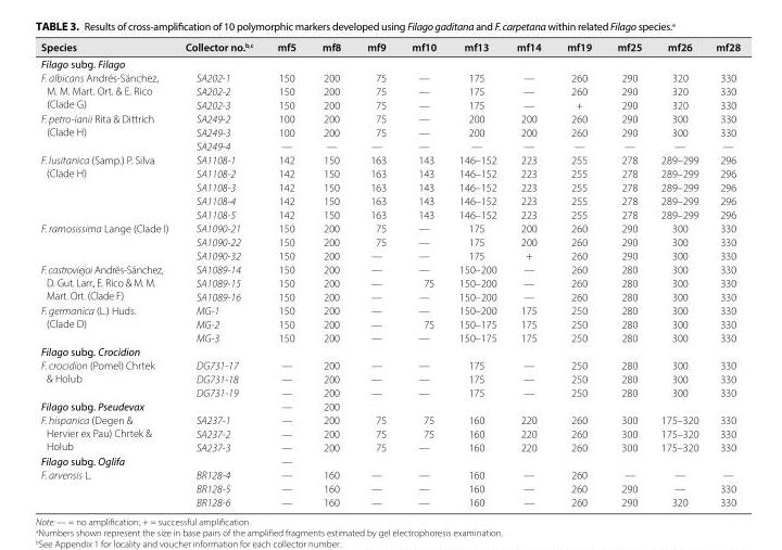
<table><thead><tr><td>Species</td><td>Collector no.<sup>b,</sup>c</td><td>mf5</td><td>mf8</td><td>mf9</td><td>mf10</td><td>mf13</td><td>mf14</td><td>mf19</td><td>mf25</td><td>mf26</td><td>mf28</td></tr></thead><tbody><tr><td colspan="12">Filago subg. Filago</td></tr><tr><td rowspan="3">F. albicans Andrés- Sánchez, M. M. Mart. Ort. &amp; E. Rico (Clade G)</td><td>SA202-1</td><td>150</td><td>200</td><td>75</td><td>—</td><td>175</td><td>—</td><td>260</td><td>290</td><td>320</td><td>330</td></tr><tr><td>SA202-2</td><td>150</td><td>200</td><td>75</td><td>—</td><td>175</td><td>—</td><td>260</td><td>290</td><td>320</td><td>330</td></tr><tr><td>SA202-3</td><td>150</td><td>200</td><td>75</td><td>—</td><td>175</td><td>—</td><td>+</td><td>290</td><td>320</td><td>330</td></tr><tr><td rowspan="3">F. petro-ianii Rita &amp; Dittrich (Clade H)</td><td>SA249-2</td><td>100</td><td>200</td><td>75</td><td>—</td><td>200</td><td>200</td><td>260</td><td>290</td><td>300</td><td>330</td></tr><tr><td>SA249-3</td><td>100</td><td>200</td><td>75</td><td>—</td><td>200</td><td>200</td><td>260</td><td>290</td><td>300</td><td>330</td></tr><tr><td>SA249-4</td><td>—</td><td>—</td><td>—</td><td>—</td><td>—</td><td>—</td><td>—</td><td>—</td><td>—</td><td>—</td></tr><tr><td rowspan="5">F. lusitanica (Samp.) P. Silva (Clade H)</td><td>SA1108-1</td><td>142</td><td>150</td><td>163</td><td>143</td><td>146–152</td><td>223</td><td>255</td><td>278</td><td>289–299</td><td>296</td></tr><tr><td>SA1108-2</td><td>142</td><td>150</td><td>163</td><td>143</td><td>146–152</td><td>223</td><td>255</td><td>278</td><td>289–299</td><td>296</td></tr><tr><td>SA1108-3</td><td>142</td><td>150</td><td>163</td><td>143</td><td>146–152</td><td>223</td><td>255</td><td>278</td><td>289–299</td><td>296</td></tr><tr><td>SA1108-4</td><td>142</td><td>150</td><td>163</td><td>143</td><td>146–152</td><td>223</td><td>255</td><td>278</td><td>289–299</td><td>296</td></tr><tr><td>SA1108-5</td><td>142</td><td>150</td><td>163</td><td>143</td><td>146–152</td><td>223</td><td>255</td><td>278</td><td>289–299</td><td>296</td></tr><tr><td rowspan="3">F. ramosissima Lange (Clade I)</td><td>SA1090-21</td><td>150</td><td>200</td><td>75</td><td>—</td><td>175</td><td>200</td><td>260</td><td>290</td><td>300</td><td>330</td></tr><tr><td>SA1090-22</td><td>150</td><td>200</td><td>75</td><td>—</td><td>175</td><td>200</td><td>260</td><td>290</td><td>300</td><td>330</td></tr><tr><td>SA1090-32</td><td>150</td><td>200</td><td>—</td><td>—</td><td>175</td><td>+</td><td>260</td><td>290</td><td>300</td><td>330</td></tr><tr><td rowspan="3">F. castroviejoi Andrés- Sánchez, D. Gut. Larr., E. Rico &amp; M. M. Mart. Ort. (Clade F)</td><td>SA1089-14</td><td>150</td><td>200</td><td>—</td><td>—</td><td>150–200</td><td>—</td><td>260</td><td>280</td><td>300</td><td>330</td></tr><tr><td>SA1089-15</td><td>150</td><td>200</td><td>—</td><td>75</td><td>150–200</td><td>—</td><td>260</td><td>280</td><td>300</td><td>330</td></tr><tr><td>SA1089-16</td><td>150</td><td>200</td><td>—</td><td>—</td><td>150–200</td><td>—</td><td>260</td><td>280</td><td>300</td><td>330</td></tr><tr><td rowspan="3">F. germanica (L.) Huds. (Clade D)</td><td>MG-1</td><td>150</td><td>200</td><td>—</td><td>—</td><td>150–200</td><td>175</td><td>250</td><td>280</td><td>300</td><td>330</td></tr><tr><td>MG-2</td><td>150</td><td>200</td><td>—</td><td>75</td><td>150–175</td><td>175</td><td>250</td><td>280</td><td>300</td><td>330</td></tr><tr><td>MG-3</td><td>150</td><td>200</td><td>—</td><td>—</td><td>150–175</td><td>175</td><td>250</td><td>280</td><td>300</td><td>330</td></tr><tr><td colspan="12">Filago subg. Crocidion</td></tr><tr><td rowspan="3">F. crocidion (Pomel) Chrtek &amp; Holub</td><td>DG731-17</td><td>—</td><td>200</td><td>—</td><td>—</td><td>175</td><td>—</td><td>250</td><td>280</td><td>300</td><td>330</td></tr><tr><td>DG731-18</td><td>—</td><td>200</td><td>—</td><td>—</td><td>175</td><td>—</td><td>250</td><td>280</td><td>300</td><td>330</td></tr><tr><td>DG731-19</td><td>—</td><td>200</td><td>—</td><td>—</td><td>175</td><td>—</td><td>250</td><td>280</td><td>300</td><td>330</td></tr><tr><td>Filago subg. Pseudevax</td><td></td><td>—</td><td>200</td><td></td><td></td><td></td><td></td><td></td><td></td><td></td><td></td></tr><tr><td rowspan="3">F. hispanica (Degen &amp; Hervier ex Pau) Chrtek &amp; Holub</td><td>SA237-1</td><td>—</td><td>200</td><td>75</td><td>75</td><td>160</td><td>220</td><td>260</td><td>300</td><td>175–320</td><td>330</td></tr><tr><td>SA237-2</td><td>—</td><td>200</td><td>75</td><td>75</td><td>160</td><td>220</td><td>260</td><td>300</td><td>175–320</td><td>330</td></tr><tr><td>SA237-3</td><td>—</td><td>200</td><td>75</td><td>—</td><td>160</td><td>220</td><td>260</td><td>300</td><td>175–320</td><td>330</td></tr><tr><td>Filago subg. Oglifa</td><td></td><td>—</td><td></td><td></td><td></td><td></td><td></td><td></td><td></td><td></td><td></td></tr><tr><td rowspan="3">F. arvensis L.</td><td>BR128-4</td><td>—</td><td>160</td><td>—</td><td>—</td><td>160</td><td>—</td><td>260</td><td>—</td><td>—</td><td>—</td></tr><tr><td>BR128-5</td><td>—</td><td>160</td><td>—</td><td>—</td><td>160</td><td>—</td><td>260</td><td>290</td><td>—</td><td>330</td></tr><tr><td>BR128-6</td><td>—</td><td>160</td><td>—</td><td>—</td><td>160</td><td>—</td><td>260</td><td>290</td><td>320</td><td>330</td></tr></tbody></table>